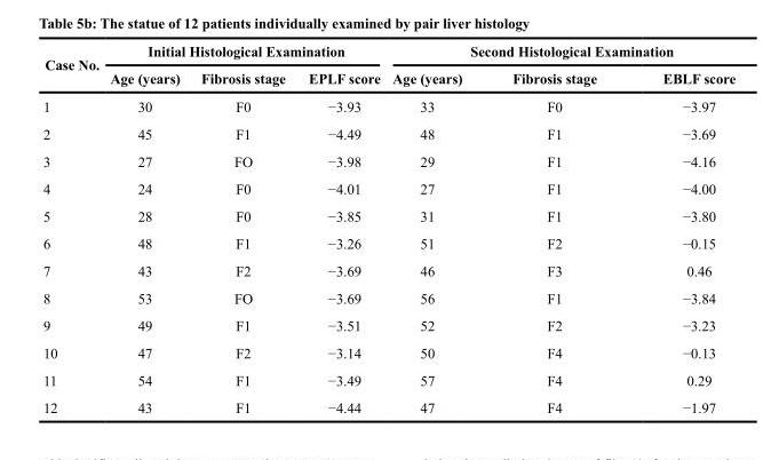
<table><thead><tr><td rowspan="2">Case No.</td><td colspan="3">Initial Histological Examination</td><td colspan="3">Second Histological Examination</td></tr><tr><td>Age (years)</td><td>Fibrosis stage</td><td>EPLF score</td><td>Age (years)</td><td>Fibrosis stage</td><td>EBLF score</td></tr></thead><tbody><tr><td>1</td><td>30</td><td>F0</td><td>−3.93</td><td>33</td><td>F0</td><td>−3.97</td></tr><tr><td>2</td><td>45</td><td>F1</td><td>−4.49</td><td>48</td><td>F1</td><td>−3.69</td></tr><tr><td>3</td><td>27</td><td>FO</td><td>−3.98</td><td>29</td><td>F1</td><td>−4.16</td></tr><tr><td>4</td><td>24</td><td>F0</td><td>−4.01</td><td>27</td><td>F1</td><td>−4.00</td></tr><tr><td>5</td><td>28</td><td>F0</td><td>−3.85</td><td>31</td><td>F1</td><td>−3.80</td></tr><tr><td>6</td><td>48</td><td>F1</td><td>−3.26</td><td>51</td><td>F2</td><td>−0.15</td></tr><tr><td>7</td><td>43</td><td>F2</td><td>−3.69</td><td>46</td><td>F3</td><td>0.46</td></tr><tr><td>8</td><td>53</td><td>FO</td><td>−3.69</td><td>56</td><td>F1</td><td>−3.84</td></tr><tr><td>9</td><td>49</td><td>F1</td><td>−3.51</td><td>52</td><td>F2</td><td>−3.23</td></tr><tr><td>10</td><td>47</td><td>F2</td><td>−3.14</td><td>50</td><td>F4</td><td>−0.13</td></tr><tr><td>11</td><td>54</td><td>F1</td><td>−3.49</td><td>57</td><td>F4</td><td>0.29</td></tr><tr><td>12</td><td>43</td><td>F1</td><td>−4.44</td><td>47</td><td>F4</td><td>−1.97</td></tr></tbody></table>